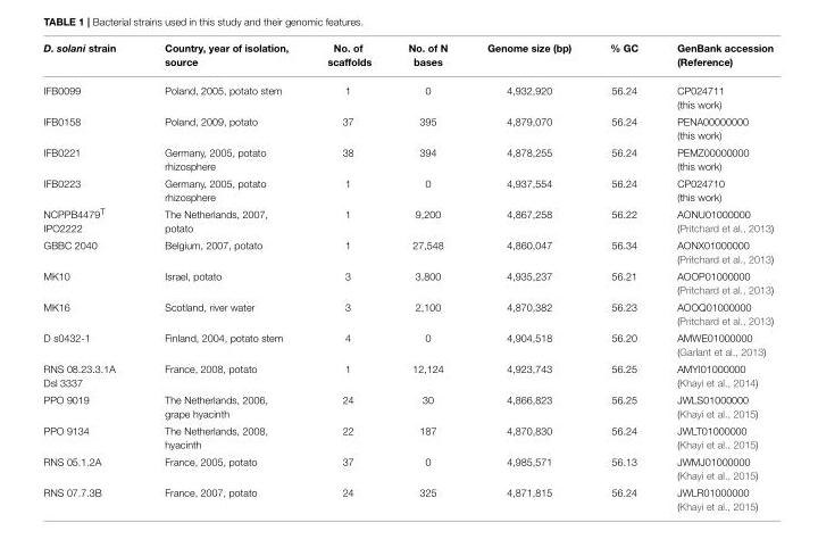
<table><thead><tr><td>D. solani strain</td><td>Country, year of isolation, source</td><td>No. of scaffolds</td><td>No. of N bases</td><td>Genome size (bp)</td><td>% GC</td><td>GenBank accession (Reference)</td></tr></thead><tbody><tr><td>IFB0099</td><td>Poland, 2005, potato stem</td><td>1</td><td>0</td><td>4,932,920</td><td>56.24</td><td>CP024711 (this work)</td></tr><tr><td>IFB0158</td><td>Poland, 2009, potato</td><td>37</td><td>395</td><td>4,879,070</td><td>56.24</td><td>PENA00000000 (this work)</td></tr><tr><td>IFB0221</td><td>Germany, 2005, potato rhizosphere</td><td>38</td><td>394</td><td>4,878,255</td><td>56.24</td><td>PEMZ00000000 (this work)</td></tr><tr><td>IFB0223</td><td>Germany, 2005, potato rhizosphere</td><td>1</td><td>0</td><td>4,937,554</td><td>56.24</td><td>CP024710 (this work)</td></tr><tr><td>NCPPB4479<sup>T</sup> IPO2222</td><td>The Netherlands, 2007, potato</td><td>1</td><td>9,200</td><td>4,867,258</td><td>56.22</td><td>AONU01000000 (Pritchard et al., 2013)</td></tr><tr><td>GBBC 2040</td><td>Belgium, 2007, potato</td><td>1</td><td>27,548</td><td>4,860,047</td><td>56.34</td><td>AONX01000000 (Pritchard et al., 2013)</td></tr><tr><td>MK10</td><td>Israel, potato</td><td>3</td><td>3,800</td><td>4,935,237</td><td>56.21</td><td>AOOP01000000 (Pritchard et al., 2013)</td></tr><tr><td>MK16</td><td>Scotland, river water</td><td>3</td><td>2,100</td><td>4,870,382</td><td>56.23</td><td>AOOQ01000000 (Pritchard et al., 2013)</td></tr><tr><td>D s0432-1</td><td>Finland, 2004, potato stem</td><td>4</td><td>0</td><td>4,904,518</td><td>56.20</td><td>AMWE01000000 (Garlant et al., 2013)</td></tr><tr><td>RNS 08.23.3.1A Dsl 3337</td><td>France, 2008, potato</td><td>1</td><td>12,124</td><td>4,923,743</td><td>56.25</td><td>AMYI01000000 (Khayi et al., 2014)</td></tr><tr><td>PPO 9019</td><td>The Netherlands, 2006, grape hyacinth</td><td>24</td><td>30</td><td>4,866,823</td><td>56.25</td><td>JWLS01000000 (Khayi et al., 2015)</td></tr><tr><td>PPO 9134</td><td>The Netherlands, 2008, hyacinth</td><td>22</td><td>187</td><td>4,870,830</td><td>56.24</td><td>JWLT01000000 (Khayi et al., 2015)</td></tr><tr><td>RNS 05.1.2A</td><td>France, 2005, potato</td><td>37</td><td>0</td><td>4,985,571</td><td>56.13</td><td>JWMJ01000000 (Khayi et al., 2015)</td></tr><tr><td>RNS 07.7.3B</td><td>France, 2007, potato</td><td>24</td><td>325</td><td>4,871,815</td><td>56.24</td><td>JWLR01000000 (Khayi et al., 2015)</td></tr></tbody></table>